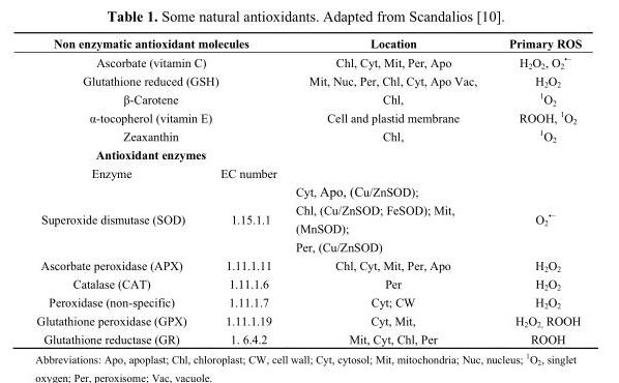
<table><thead><tr><td colspan="2">Non enzymatic antioxidant molecules</td><td>Location</td><td>Primary ROS</td></tr></thead><tbody><tr><td colspan="2">Ascorbate (vitamin C)</td><td>Chl, Cyt, Mit, Per, Apo</td><td>H<sub>2</sub>O<sub>2</sub>, O<sub>2</sub> <sup>•−</sup></td></tr><tr><td colspan="2">Glutathione reduced (GSH)</td><td>Mit, Nuc, Per, Chl, Cyt, Apo Vac,</td><td>H<sub>2</sub>O<sub>2</sub></td></tr><tr><td colspan="2">β-Carotene</td><td>Chl,</td><td><sup>1</sup>O<sub>2</sub></td></tr><tr><td colspan="2">α-tocopherol (vitamin E)</td><td>Cell and plastid membrane</td><td>ROOH, <sup>1</sup>O<sub>2</sub></td></tr><tr><td colspan="2">Zeaxanthin</td><td>Chl,</td><td><sup>1</sup>O<sub>2</sub></td></tr><tr><td colspan="4">Antioxidant enzymes</td></tr><tr><td>Enzyme</td><td>EC number</td><td></td><td></td></tr><tr><td>Superoxide dismutase (SOD)</td><td>1.15.1.1</td><td>Cyt, Apo, (Cu/ZnSOD); Chl, (Cu/ZnSOD; FeSOD); Mit, (MnSOD); Per, (Cu/ZnSOD)</td><td>O<sub>2</sub> <sup>•−</sup></td></tr><tr><td>Ascorbate peroxidase (APX)</td><td>1.11.1.11</td><td>Chl, Cyt, Mit, Per, Apo</td><td>H<sub>2</sub>O<sub>2</sub></td></tr><tr><td>Catalase (CAT)</td><td>1.11.1.6</td><td>Per</td><td>H<sub>2</sub>O<sub>2</sub></td></tr><tr><td>Peroxidase (non-specific)</td><td>1.11.1.7</td><td>Cyt; CW</td><td>H<sub>2</sub>O<sub>2</sub></td></tr><tr><td>Glutathione peroxidase (GPX)</td><td>1.11.1.19</td><td>Cyt, Mit,</td><td>H<sub>2</sub>O<sub>2,</sub> ROOH</td></tr><tr><td>Glutathione reductase (GR)</td><td>1. 6.4.2</td><td>Mit, Cyt, Chl, Per</td><td>ROOH</td></tr></tbody></table>